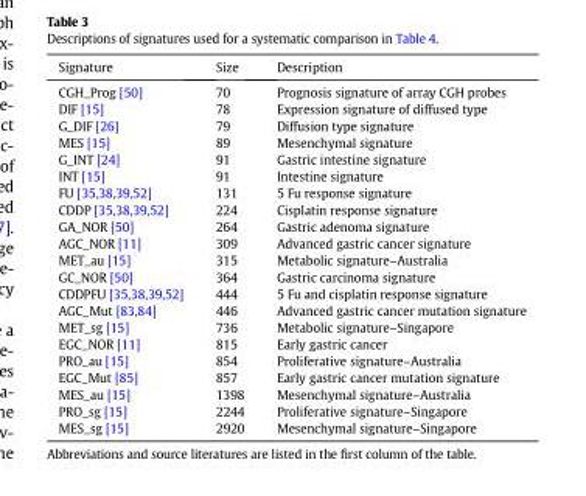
<table><thead><tr><td>Signature</td><td>Size</td><td>Description</td></tr></thead><tbody><tr><td>CGH_Prog [50]</td><td>70</td><td>Prognosis signature of array CGH probes</td></tr><tr><td>DIF [15]</td><td>78</td><td>Expression signature of diffused type</td></tr><tr><td>G_DIF [26]</td><td>79</td><td>Diffusion type signature</td></tr><tr><td>MES [15]</td><td>89</td><td>Mesenchymal signature</td></tr><tr><td>G_INT [24]</td><td>91</td><td>Gastric intestine signature</td></tr><tr><td>INT [15]</td><td>91</td><td>Intestine signature</td></tr><tr><td>FU [35,38,39,52]</td><td>131</td><td>5 Fu response signature</td></tr><tr><td>CDDP [35,38,39,52]</td><td>224</td><td>Cisplatin response signature</td></tr><tr><td>GA_NOR [50]</td><td>264</td><td>Gastric adenoma signature</td></tr><tr><td>AGC_NOR [11]</td><td>309</td><td>Advanced gastric cancer signature</td></tr><tr><td>MET_au [15]</td><td>315</td><td>Metabolic signature–Australia</td></tr><tr><td>GC_NOR [50]</td><td>364</td><td>Gastric carcinoma signature</td></tr><tr><td>CDDPFU [35,38,39,52]</td><td>444</td><td>5 Fu and cisplatin response signature</td></tr><tr><td>AGC_Mut [83,84]</td><td>446</td><td>Advanced gastric cancer mutation signature</td></tr><tr><td>MET_sg [15]</td><td>736</td><td>Metabolic signature–Singapore</td></tr><tr><td>EGC_NOR [11]</td><td>815</td><td>Early gastric cancer</td></tr><tr><td>PRO_au [15]</td><td>854</td><td>Proliferative signature–Australia</td></tr><tr><td>EGC_Mut [85]</td><td>857</td><td>Early gastric cancer mutation signature</td></tr><tr><td>MES_au [15]</td><td>1398</td><td>Mesenchymal signature–Australia</td></tr><tr><td>PRO_sg [15]</td><td>2244</td><td>Proliferative signature–Singapore</td></tr><tr><td>MES_sg [15]</td><td>2920</td><td>Mesenchymal signature–Singapore</td></tr></tbody></table>